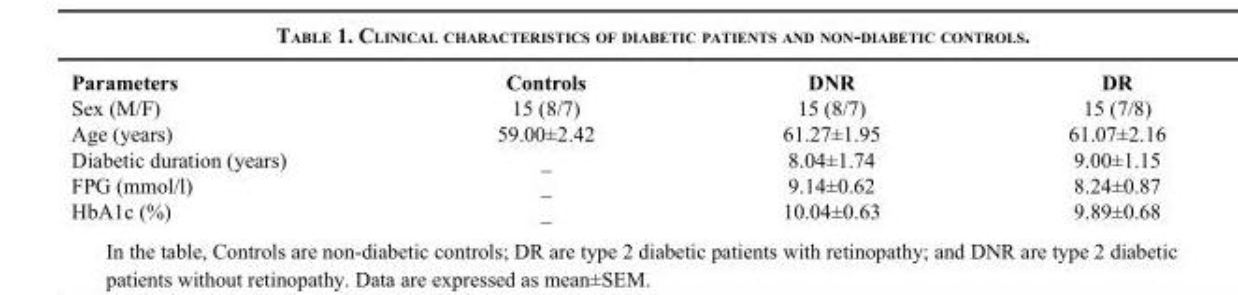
<table><thead><tr><td>Parameters</td><td>Controls</td><td>DNR</td><td>DR</td></tr></thead><tbody><tr><td>Sex (M/F)</td><td>15 (8/7)</td><td>15 (8/7)</td><td>15 (7/8)</td></tr><tr><td>Age (years)</td><td>59.00±2.42</td><td>61.27±1.95</td><td>61.07±2.16</td></tr><tr><td>Diabetic duration (years)</td><td>_</td><td>8.04±1.74</td><td>9.00±1.15</td></tr><tr><td>FPG (mmol/l)</td><td>_</td><td>9.14±0.62</td><td>8.24±0.87</td></tr><tr><td>HbA1c (%)</td><td>_</td><td>10.04±0.63</td><td>9.89±0.68</td></tr></tbody></table>